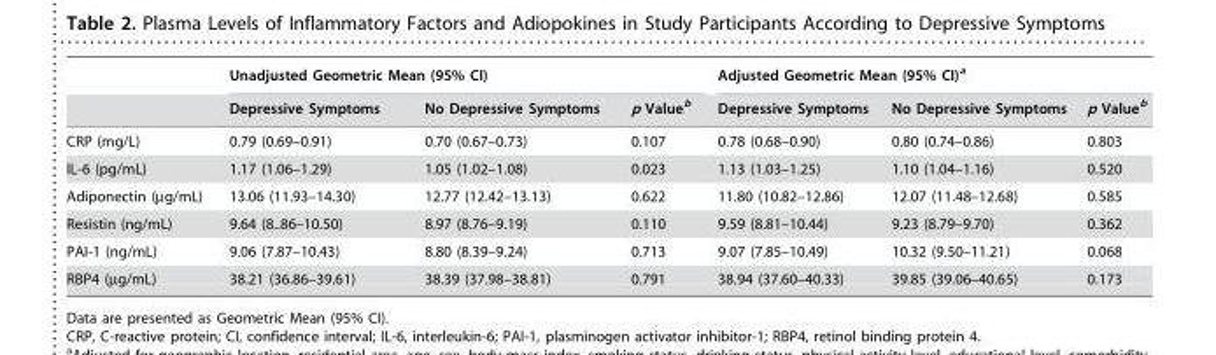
<table><thead><tr><td rowspan="2"></td><td colspan="3">Unadjusted Geometric Mean (95% CI)</td><td colspan="3">Adjusted Geometric Mean (95% CI)<sup>a</sup></td></tr><tr><td>Depressive Symptoms</td><td>No Depressive Symptoms</td><td>p Value<sup>b</sup></td><td>Depressive Symptoms</td><td>No Depressive Symptoms</td><td>p Value<sup>b</sup></td></tr></thead><tbody><tr><td>CRP (mg/L)</td><td>0.79 (0.69–0.91)</td><td>0.70 (0.67–0.73)</td><td>0.107</td><td>0.78 (0.68–0.90)</td><td>0.80 (0.74–0.86)</td><td>0.803</td></tr><tr><td>IL-6 (pg/mL)</td><td>1.17 (1.06–1.29)</td><td>1.05 (1.02–1.08)</td><td>0.023</td><td>1.13 (1.03–1.25)</td><td>1.10 (1.04–1.16)</td><td>0.520</td></tr><tr><td>Adiponectin (µg/mL)</td><td>13.06 (11.93–14.30)</td><td>12.77 (12.42–13.13)</td><td>0.622</td><td>11.80 (10.82–12.86)</td><td>12.07 (11.48–12.68)</td><td>0.585</td></tr><tr><td>Resistin (ng/mL)</td><td>9.64 (8..86–10.50)</td><td>8.97 (8.76–9.19)</td><td>0.110</td><td>9.59 (8.81–10.44)</td><td>9.23 (8.79–9.70)</td><td>0.362</td></tr><tr><td>PAI-1 (ng/mL)</td><td>9.06 (7.87–10.43)</td><td>8.80 (8.39–9.24)</td><td>0.713</td><td>9.07 (7.85–10.49)</td><td>10.32 (9.50–11.21)</td><td>0.068</td></tr><tr><td>RBP4 (µg/mL)</td><td>38.21 (36.86–39.61)</td><td>38.39 (37.98–38.81)</td><td>0.791</td><td>38.94 (37.60–40.33)</td><td>39.85 (39.06–40.65)</td><td>0.173</td></tr></tbody></table>